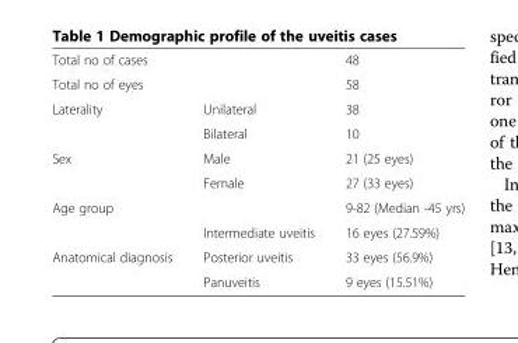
<table><tbody><tr><td>Total no of cases</td><td></td><td>48</td></tr><tr><td>Total no of eyes</td><td></td><td>58</td></tr><tr><td rowspan="2">Laterality</td><td>Unilateral</td><td>38</td></tr><tr><td>Bilateral</td><td>10</td></tr><tr><td rowspan="2">Sex</td><td>Male</td><td>21 (25 eyes)</td></tr><tr><td>Female</td><td>27 (33 eyes)</td></tr><tr><td rowspan="2">Age group</td><td></td><td>9-82 (Median -45 yrs)</td></tr><tr><td>Intermediate uveitis</td><td>16 eyes (27.59%)</td></tr><tr><td rowspan="2">Anatomical diagnosis</td><td>Posterior uveitis</td><td>33 eyes (56.9%)</td></tr><tr><td>Panuveitis</td><td>9 eyes (15.51%)</td></tr></tbody></table>